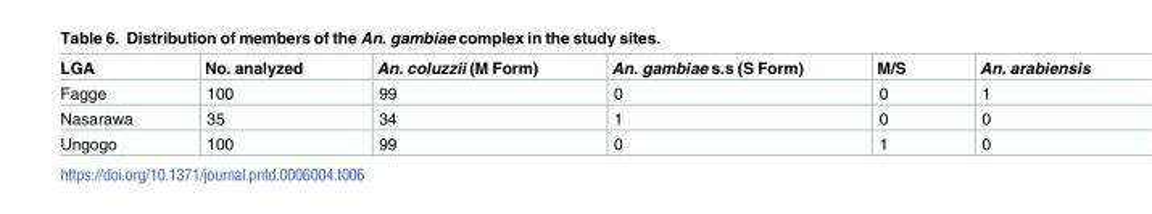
<table><thead><tr><td>LGA</td><td>No. analyzed</td><td>An. coluzzii (M Form)</td><td>An. gambiae s.s (S Form)</td><td>M/S</td><td>An. arabiensis</td></tr></thead><tbody><tr><td>Fagge</td><td>100</td><td>99</td><td>0</td><td>0</td><td>1</td></tr><tr><td>Nasarawa</td><td>35</td><td>34</td><td>1</td><td>0</td><td>0</td></tr><tr><td>Ungogo</td><td>100</td><td>99</td><td>0</td><td>1</td><td>0</td></tr></tbody></table>